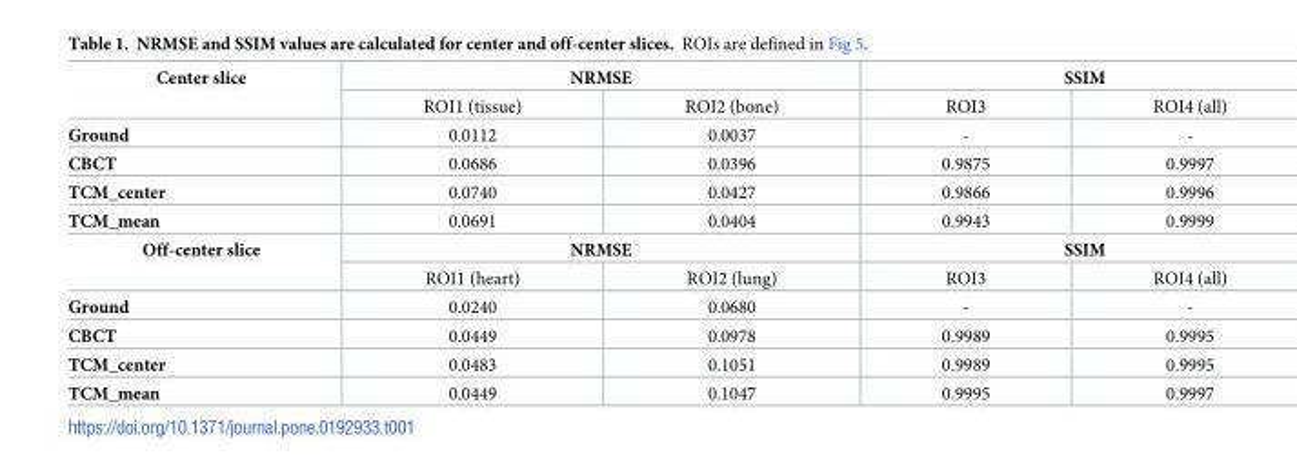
<table><tbody><tr><td rowspan="2">Center slice</td><td colspan="2">NRMSE</td><td colspan="2">SSIM</td></tr><tr><td>ROI1 (tissue)</td><td>ROI2 (bone)</td><td>ROI3</td><td>ROI4 (all)</td></tr><tr><td>Ground</td><td>0.0112</td><td>0.0037</td><td>-</td><td>-</td></tr><tr><td>CBCT</td><td>0.0686</td><td>0.0396</td><td>0.9875</td><td>0.9997</td></tr><tr><td>TCM_center</td><td>0.0740</td><td>0.0427</td><td>0.9866</td><td>0.9996</td></tr><tr><td>TCM_mean</td><td>0.0691</td><td>0.0404</td><td>0.9943</td><td>0.9999</td></tr><tr><td rowspan="2">Off-center slice</td><td colspan="2">NRMSE</td><td colspan="2">SSIM</td></tr><tr><td>ROI1 (heart)</td><td>ROI2 (lung)</td><td>ROI3</td><td>ROI4 (all)</td></tr><tr><td>Ground</td><td>0.0240</td><td>0.0680</td><td>-</td><td>-</td></tr><tr><td>CBCT</td><td>0.0449</td><td>0.0978</td><td>0.9989</td><td>0.9995</td></tr><tr><td>TCM_center</td><td>0.0483</td><td>0.1051</td><td>0.9989</td><td>0.9995</td></tr><tr><td>TCM_mean</td><td>0.0449</td><td>0.1047</td><td>0.9995</td><td>0.9997</td></tr></tbody></table>